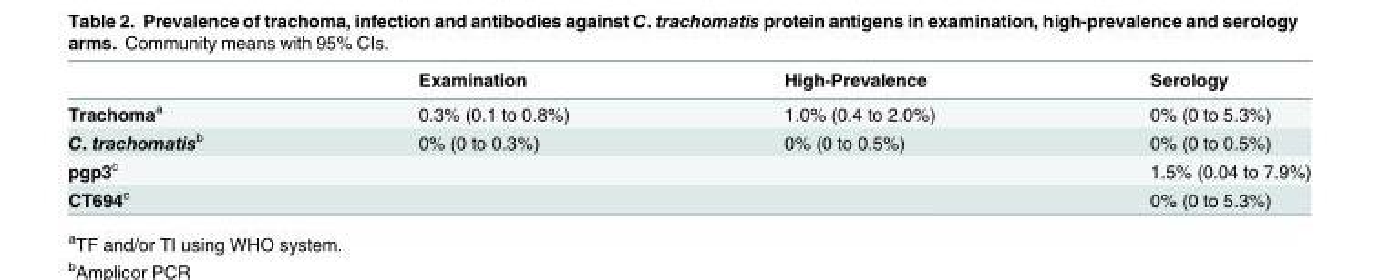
<table><thead><tr><td></td><td>Examination</td><td>High-Prevalence</td><td>Serology</td></tr></thead><tbody><tr><td>Trachoma<sup>a</sup></td><td>0.3% (0.1 to 0.8%)</td><td>1.0% (0.4 to 2.0%)</td><td>0% (0 to 5.3%)</td></tr><tr><td>C. trachomatis<sup>b</sup></td><td>0% (0 to 0.3%)</td><td>0% (0 to 0.5%)</td><td>0% (0 to 0.5%)</td></tr><tr><td>pgp3<sup>c</sup></td><td></td><td></td><td>1.5% (0.04 to 7.9%)</td></tr><tr><td>CT694<sup>c</sup></td><td></td><td></td><td>0% (0 to 5.3%)</td></tr></tbody></table>